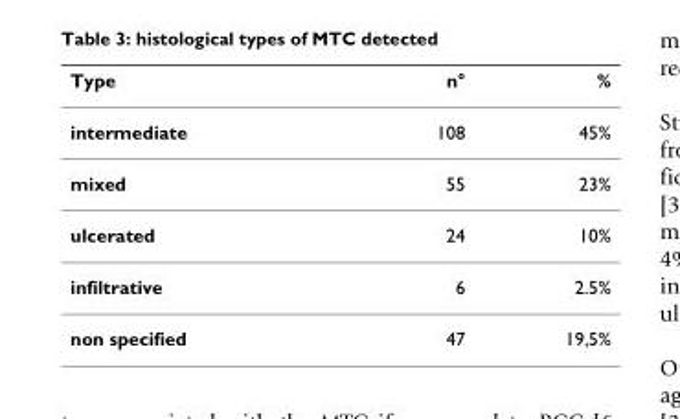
<table><thead><tr><td>Type</td><td>n°</td><td>%</td></tr></thead><tbody><tr><td>intermediate</td><td>108</td><td>45%</td></tr><tr><td>mixed</td><td>55</td><td>23%</td></tr><tr><td>ulcerated</td><td>24</td><td>10%</td></tr><tr><td>infiltrative</td><td>6</td><td>2.5%</td></tr><tr><td>non specified</td><td>47</td><td>19,5%</td></tr></tbody></table>